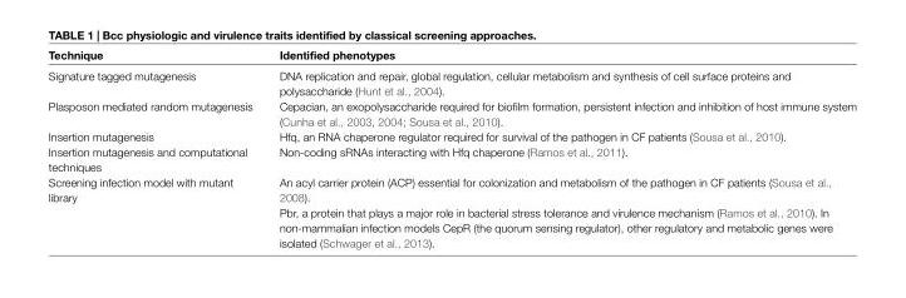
<table><thead><tr><td>Technique</td><td>Identified phenotypes</td></tr></thead><tbody><tr><td>Signature tagged mutagenesis</td><td>DNA replication and repair, global regulation, cellular metabolism and synthesis of cell surface proteins and polysaccharide (Hunt et al., 2004).</td></tr><tr><td>Plasposon mediated random mutagenesis</td><td>Cepacian, an exopolysaccharide required for biofilm formation, persistent infection and inhibition of host immune system (Cunha et al., 2003, 2004; Sousa et al., 2010).</td></tr><tr><td>Insertion mutagenesis</td><td>Hfq, an RNA chaperone regulator required for survival of the pathogen in CF patients (Sousa et al., 2010).</td></tr><tr><td>Insertion mutagenesis and computational techniques</td><td>Non-coding sRNAs interacting with Hfq chaperone (Ramos et al., 2011).</td></tr><tr><td rowspan="2">Screening infection model with mutant library</td><td>An acyl carrier protein (ACP) essential for colonization and metabolism of the pathogen in CF patients (Sousa et al., 2008).</td></tr><tr><td>Pbr, a protein that plays a major role in bacterial stress tolerance and virulence mechanism (Ramos et al., 2010). In non-mammalian infection models CepR (the quorum sensing regulator), other regulatory and metabolic genes were isolated (Schwager et al., 2013).</td></tr></tbody></table>